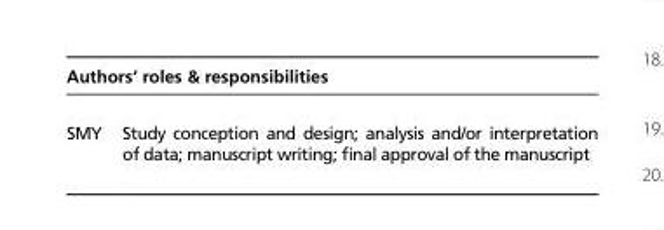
<table><thead><tr><td colspan="2">Authors’ roles &amp; responsibilities</td></tr><tr><td>SMY</td><td>Study conception and design; analysis and/or interpretation of data; manuscript writing; final approval of the manuscript</td></tr></thead><tbody></tbody></table>